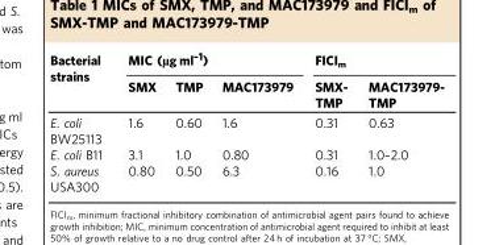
<table><thead><tr><td rowspan="2">Bacterial strains</td><td colspan="3">MIC (µg ml<sup>–1</sup>)</td><td colspan="2">FICI<sub>m</sub></td></tr><tr><td>SMX</td><td>TMP</td><td>MAC173979</td><td>SMX- TMP</td><td>MAC173979- TMP</td></tr></thead><tbody><tr><td>E. coli BW25113</td><td>1.6</td><td>0.60</td><td>1.6</td><td>0.31</td><td>0.63</td></tr><tr><td>E. coli B11</td><td>3.1</td><td>1.0</td><td>0.80</td><td>0.31</td><td>1.0–2.0</td></tr><tr><td>S. aureus USA300</td><td>0.80</td><td>0.50</td><td>6.3</td><td>0.16</td><td>1.0</td></tr></tbody></table>